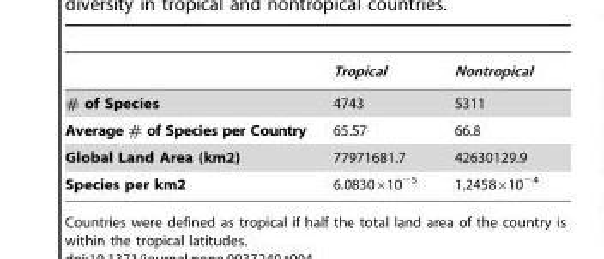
<table><thead><tr><td></td><td>Tropical</td><td>Nontropical</td></tr></thead><tbody><tr><td># of Species</td><td>4743</td><td>5311</td></tr><tr><td>Average # of Species per Country</td><td>65.57</td><td>66.8</td></tr><tr><td>Global Land Area (km2)</td><td>77971681.7</td><td>42630129.9</td></tr><tr><td>Species per km2</td><td>6.0830×10<sup>−5</sup></td><td>1.2458×10<sup>−4</sup></td></tr></tbody></table>